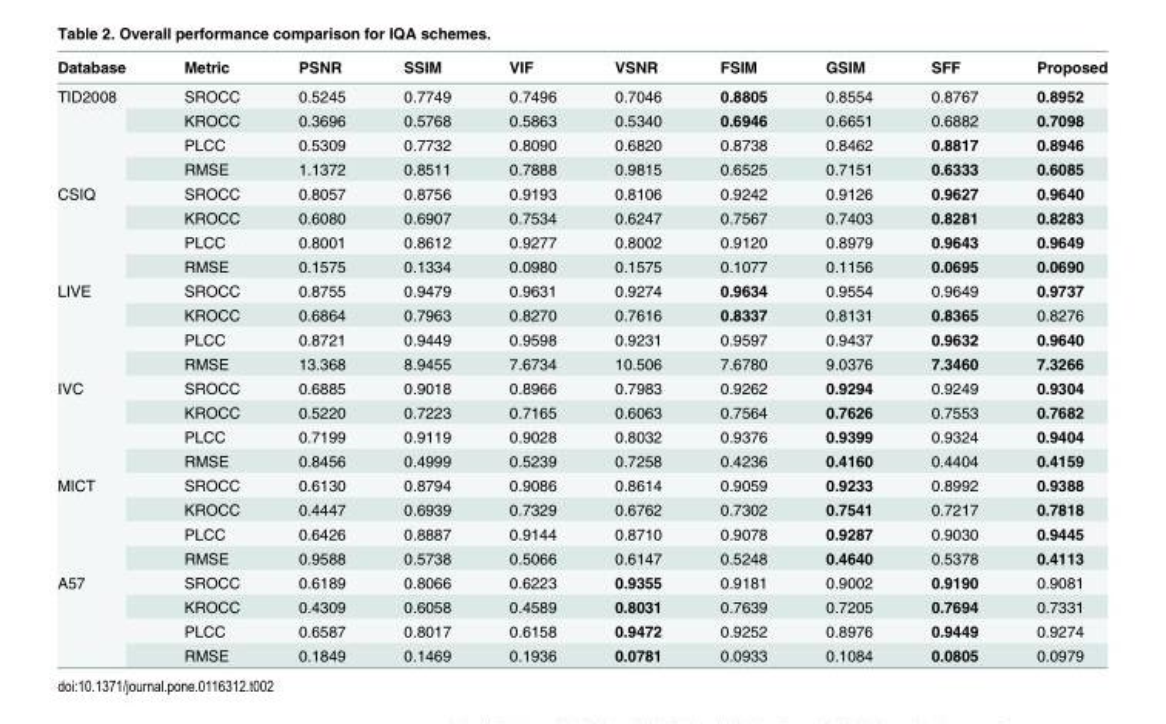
<table><thead><tr><td>Database</td><td>Metric</td><td>PSNR</td><td>SSIM</td><td>VIF</td><td>VSNR</td><td>FSIM</td><td>GSIM</td><td>SFF</td><td>Proposed</td></tr></thead><tbody><tr><td rowspan="4">TID2008</td><td>SROCC</td><td>0.5245</td><td>0.7749</td><td>0.7496</td><td>0.7046</td><td>0.8805</td><td>0.8554</td><td>0.8767</td><td>0.8952</td></tr><tr><td>KROCC</td><td>0.3696</td><td>0.5768</td><td>0.5863</td><td>0.5340</td><td>0.6946</td><td>0.6651</td><td>0.6882</td><td>0.7098</td></tr><tr><td>PLCC</td><td>0.5309</td><td>0.7732</td><td>0.8090</td><td>0.6820</td><td>0.8738</td><td>0.8462</td><td>0.8817</td><td>0.8946</td></tr><tr><td>RMSE</td><td>1.1372</td><td>0.8511</td><td>0.7888</td><td>0.9815</td><td>0.6525</td><td>0.7151</td><td>0.6333</td><td>0.6085</td></tr><tr><td rowspan="4">CSIQ</td><td>SROCC</td><td>0.8057</td><td>0.8756</td><td>0.9193</td><td>0.8106</td><td>0.9242</td><td>0.9126</td><td>0.9627</td><td>0.9640</td></tr><tr><td>KROCC</td><td>0.6080</td><td>0.6907</td><td>0.7534</td><td>0.6247</td><td>0.7567</td><td>0.7403</td><td>0.8281</td><td>0.8283</td></tr><tr><td>PLCC</td><td>0.8001</td><td>0.8612</td><td>0.9277</td><td>0.8002</td><td>0.9120</td><td>0.8979</td><td>0.9643</td><td>0.9649</td></tr><tr><td>RMSE</td><td>0.1575</td><td>0.1334</td><td>0.0980</td><td>0.1575</td><td>0.1077</td><td>0.1156</td><td>0.0695</td><td>0.0690</td></tr><tr><td rowspan="4">LIVE</td><td>SROCC</td><td>0.8755</td><td>0.9479</td><td>0.9631</td><td>0.9274</td><td>0.9634</td><td>0.9554</td><td>0.9649</td><td>0.9737</td></tr><tr><td>KROCC</td><td>0.6864</td><td>0.7963</td><td>0.8270</td><td>0.7616</td><td>0.8337</td><td>0.8131</td><td>0.8365</td><td>0.8276</td></tr><tr><td>PLCC</td><td>0.8721</td><td>0.9449</td><td>0.9598</td><td>0.9231</td><td>0.9597</td><td>0.9437</td><td>0.9632</td><td>0.9640</td></tr><tr><td>RMSE</td><td>13.368</td><td>8.9455</td><td>7.6734</td><td>10.506</td><td>7.6780</td><td>9.0376</td><td>7.3460</td><td>7.3266</td></tr><tr><td rowspan="4">IVC</td><td>SROCC</td><td>0.6885</td><td>0.9018</td><td>0.8966</td><td>0.7983</td><td>0.9262</td><td>0.9294</td><td>0.9249</td><td>0.9304</td></tr><tr><td>KROCC</td><td>0.5220</td><td>0.7223</td><td>0.7165</td><td>0.6063</td><td>0.7564</td><td>0.7626</td><td>0.7553</td><td>0.7682</td></tr><tr><td>PLCC</td><td>0.7199</td><td>0.9119</td><td>0.9028</td><td>0.8032</td><td>0.9376</td><td>0.9399</td><td>0.9324</td><td>0.9404</td></tr><tr><td>RMSE</td><td>0.8456</td><td>0.4999</td><td>0.5239</td><td>0.7258</td><td>0.4236</td><td>0.4160</td><td>0.4404</td><td>0.4159</td></tr><tr><td rowspan="4">MICT</td><td>SROCC</td><td>0.6130</td><td>0.8794</td><td>0.9086</td><td>0.8614</td><td>0.9059</td><td>0.9233</td><td>0.8992</td><td>0.9388</td></tr><tr><td>KROCC</td><td>0.4447</td><td>0.6939</td><td>0.7329</td><td>0.6762</td><td>0.7302</td><td>0.7541</td><td>0.7217</td><td>0.7818</td></tr><tr><td>PLCC</td><td>0.6426</td><td>0.8887</td><td>0.9144</td><td>0.8710</td><td>0.9078</td><td>0.9287</td><td>0.9030</td><td>0.9445</td></tr><tr><td>RMSE</td><td>0.9588</td><td>0.5738</td><td>0.5066</td><td>0.6147</td><td>0.5248</td><td>0.4640</td><td>0.5378</td><td>0.4113</td></tr><tr><td rowspan="4">A57</td><td>SROCC</td><td>0.6189</td><td>0.8066</td><td>0.6223</td><td>0.9355</td><td>0.9181</td><td>0.9002</td><td>0.9190</td><td>0.9081</td></tr><tr><td>KROCC</td><td>0.4309</td><td>0.6058</td><td>0.4589</td><td>0.8031</td><td>0.7639</td><td>0.7205</td><td>0.7694</td><td>0.7331</td></tr><tr><td>PLCC</td><td>0.6587</td><td>0.8017</td><td>0.6158</td><td>0.9472</td><td>0.9252</td><td>0.8976</td><td>0.9449</td><td>0.9274</td></tr><tr><td>RMSE</td><td>0.1849</td><td>0.1469</td><td>0.1936</td><td>0.0781</td><td>0.0933</td><td>0.1084</td><td>0.0805</td><td>0.0979</td></tr></tbody></table>